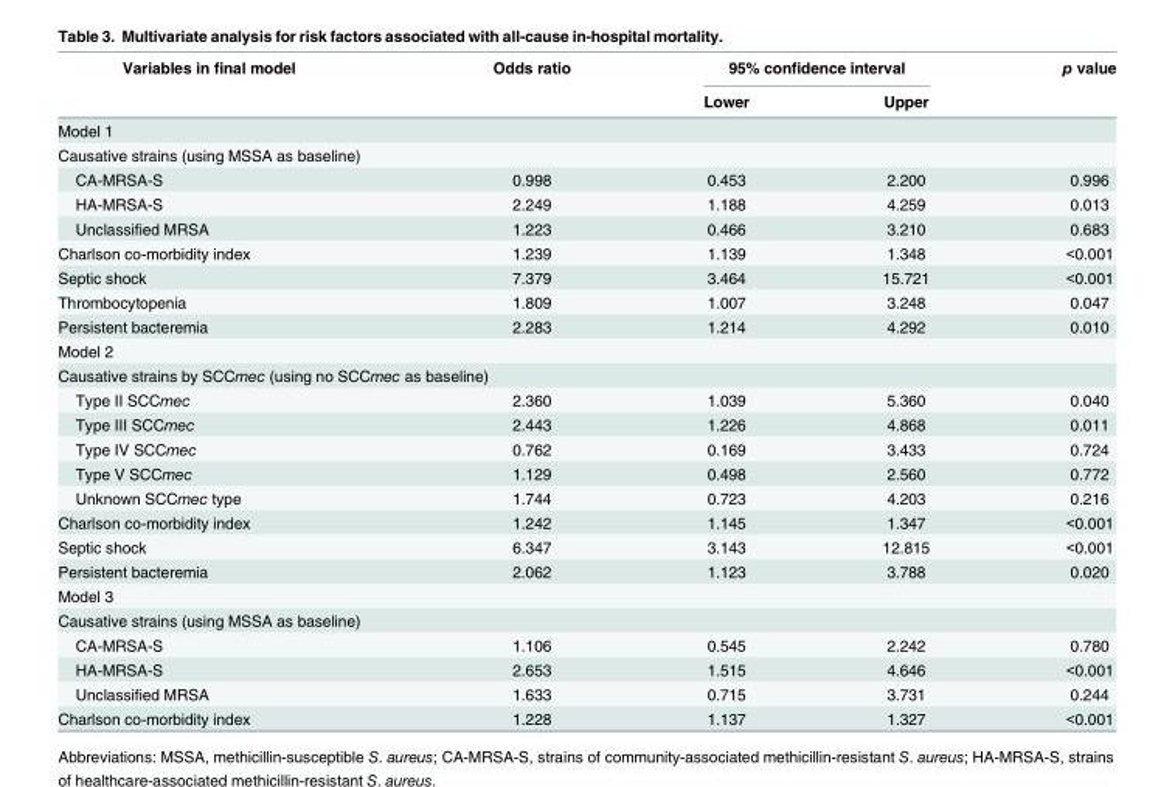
<table><thead><tr><td rowspan="2">Variables in final model</td><td rowspan="2">Odds ratio</td><td colspan="2">95% confidence interval</td><td rowspan="2">p value</td></tr><tr><td>Lower</td><td>Upper</td></tr></thead><tbody><tr><td colspan="5">Model 1</td></tr><tr><td colspan="5">Causative strains (using MSSA as baseline)</td></tr><tr><td>CA-MRSA-S</td><td>0.998</td><td>0.453</td><td>2.200</td><td>0.996</td></tr><tr><td>HA-MRSA-S</td><td>2.249</td><td>1.188</td><td>4.259</td><td>0.013</td></tr><tr><td>Unclassified MRSA</td><td>1.223</td><td>0.466</td><td>3.210</td><td>0.683</td></tr><tr><td>Charlson co-morbidity index</td><td>1.239</td><td>1.139</td><td>1.348</td><td>&lt;0.001</td></tr><tr><td>Septic shock</td><td>7.379</td><td>3.464</td><td>15.721</td><td>&lt;0.001</td></tr><tr><td>Thrombocytopenia</td><td>1.809</td><td>1.007</td><td>3.248</td><td>0.047</td></tr><tr><td>Persistent bacteremia</td><td>2.283</td><td>1.214</td><td>4.292</td><td>0.010</td></tr><tr><td colspan="5">Model 2</td></tr><tr><td colspan="5">Causative strains by SCCmec (using no SCCmec as baseline)</td></tr><tr><td>Type II SCCmec</td><td>2.360</td><td>1.039</td><td>5.360</td><td>0.040</td></tr><tr><td>Type III SCCmec</td><td>2.443</td><td>1.226</td><td>4.868</td><td>0.011</td></tr><tr><td>Type IV SCCmec</td><td>0.762</td><td>0.169</td><td>3.433</td><td>0.724</td></tr><tr><td>Type V SCCmec</td><td>1.129</td><td>0.498</td><td>2.560</td><td>0.772</td></tr><tr><td>Unknown SCCmec type</td><td>1.744</td><td>0.723</td><td>4.203</td><td>0.216</td></tr><tr><td>Charlson co-morbidity index</td><td>1.242</td><td>1.145</td><td>1.347</td><td>&lt;0.001</td></tr><tr><td>Septic shock</td><td>6.347</td><td>3.143</td><td>12.815</td><td>&lt;0.001</td></tr><tr><td>Persistent bacteremia</td><td>2.062</td><td>1.123</td><td>3.788</td><td>0.020</td></tr><tr><td colspan="5">Model 3</td></tr><tr><td colspan="5">Causative strains (using MSSA as baseline)</td></tr><tr><td>CA-MRSA-S</td><td>1.106</td><td>0.545</td><td>2.242</td><td>0.780</td></tr><tr><td>HA-MRSA-S</td><td>2.653</td><td>1.515</td><td>4.646</td><td>&lt;0.001</td></tr><tr><td>Unclassified MRSA</td><td>1.633</td><td>0.715</td><td>3.731</td><td>0.244</td></tr><tr><td>Charlson co-morbidity index</td><td>1.228</td><td>1.137</td><td>1.327</td><td>&lt;0.001</td></tr></tbody></table>